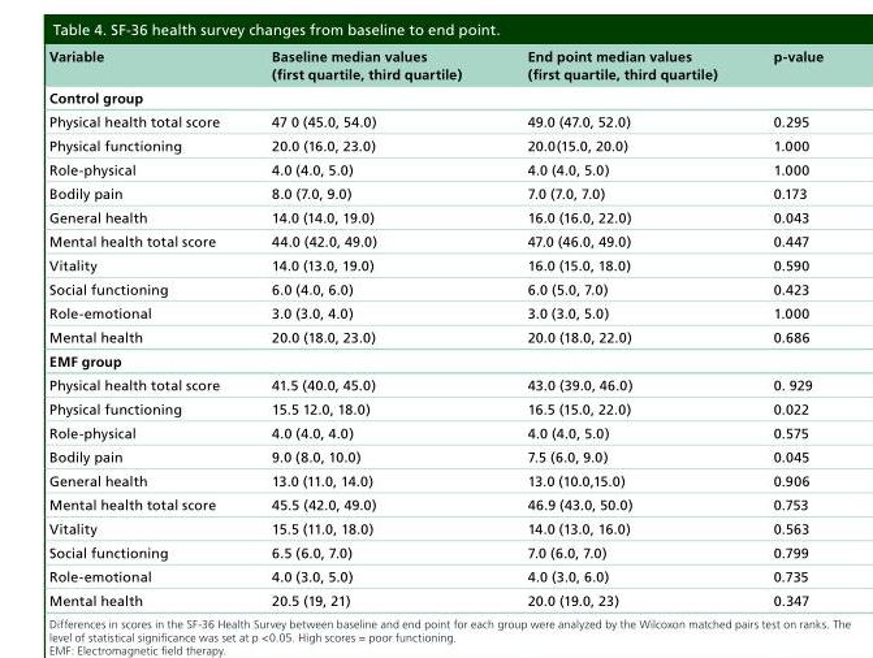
<table><thead><tr><td>Variable</td><td>Baseline median values (first quartile, third quartile)</td><td>End point median values (first quartile, third quartile)</td><td>p-value</td></tr></thead><tbody><tr><td colspan="4">Control group</td></tr><tr><td>Physical health total score</td><td>47 0 (45.0, 54.0)</td><td>49.0 (47.0, 52.0)</td><td>0.295</td></tr><tr><td>Physical functioning</td><td>20.0 (16.0, 23.0)</td><td>20.0(15.0, 20.0)</td><td>1.000</td></tr><tr><td>Role-physical</td><td>4.0 (4.0, 5.0)</td><td>4.0 (4.0, 5.0)</td><td>1.000</td></tr><tr><td>Bodily pain</td><td>8.0 (7.0, 9.0)</td><td>7.0 (7.0, 7.0)</td><td>0.173</td></tr><tr><td>General health</td><td>14.0 (14.0, 19.0)</td><td>16.0 (16.0, 22.0)</td><td>0.043</td></tr><tr><td>Mental health total score</td><td>44.0 (42.0, 49.0)</td><td>47.0 (46.0, 49.0)</td><td>0.447</td></tr><tr><td>Vitality</td><td>14.0 (13.0, 19.0)</td><td>16.0 (15.0, 18.0)</td><td>0.590</td></tr><tr><td>Social functioning</td><td>6.0 (4.0, 6.0)</td><td>6.0 (5.0, 7.0)</td><td>0.423</td></tr><tr><td>Role-emotional</td><td>3.0 (3.0, 4.0)</td><td>3.0 (3.0, 5.0)</td><td>1.000</td></tr><tr><td>Mental health</td><td>20.0 (18.0, 23.0)</td><td>20.0 (18.0, 22.0)</td><td>0.686</td></tr><tr><td colspan="4">EMF group</td></tr><tr><td>Physical health total score</td><td>41.5 (40.0, 45.0)</td><td>43.0 (39.0, 46.0)</td><td>0. 929</td></tr><tr><td>Physical functioning</td><td>15.5 12.0, 18.0)</td><td>16.5 (15.0, 22.0)</td><td>0.022</td></tr><tr><td>Role-physical</td><td>4.0 (4.0, 4.0)</td><td>4.0 (4.0, 5.0)</td><td>0.575</td></tr><tr><td>Bodily pain</td><td>9.0 (8.0, 10.0)</td><td>7.5 (6.0, 9.0)</td><td>0.045</td></tr><tr><td>General health</td><td>13.0 (11.0, 14.0)</td><td>13.0 (10.0,15.0)</td><td>0.906</td></tr><tr><td>Mental health total score</td><td>45.5 (42.0, 49.0)</td><td>46.9 (43.0, 50.0)</td><td>0.753</td></tr><tr><td>Vitality</td><td>15.5 (11.0, 18.0)</td><td>14.0 (13.0, 16.0)</td><td>0.563</td></tr><tr><td>Social functioning</td><td>6.5 (6.0, 7.0)</td><td>7.0 (6.0, 7.0)</td><td>0.799</td></tr><tr><td>Role-emotional</td><td>4.0 (3.0, 5.0)</td><td>4.0 (3.0, 6.0)</td><td>0.735</td></tr><tr><td>Mental health</td><td>20.5 (19, 21)</td><td>20.0 (19.0, 23)</td><td>0.347</td></tr></tbody></table>